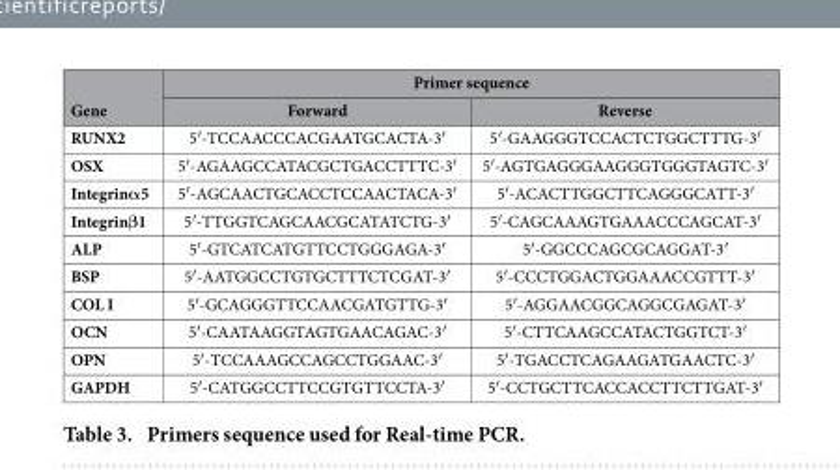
<table><thead><tr><td rowspan="2">Gene</td><td colspan="2">Primer sequence</td></tr><tr><td>Forward</td><td>Reverse</td></tr></thead><tbody><tr><td>RUNX2</td><td>5′ -TCCAACCCACGAATGCACTA-3′</td><td>5′ -GAAGGGTCCACTCTGGCTTTG-3′</td></tr><tr><td>OSX</td><td>5′ -AGAAGCCATACGCTGACCTTTC-3′</td><td>5′ -AGTGAGGGAAGGGTGGGTAGTC-3′</td></tr><tr><td>Integrinα5</td><td>5′ -AGCAACTGCACCTCCAACTACA-3′</td><td>5′ -ACACTTGGCTTCAGGGCATT-3′</td></tr><tr><td>Integrinβ1</td><td>5′ -TTGGTCAGCAACGCATATCTG-3′</td><td>5′ -CAGCAAAGTGAAACCCAGCAT-3′</td></tr><tr><td>ALP</td><td>5′ -GTCATCATGTTCCTGGGAGA-3′</td><td>5′ -GGCCCAGCGCAGGAT-3′</td></tr><tr><td>BSP</td><td>5′ -AATGGCCTGTGCTTTCTCGAT-3′</td><td>5′ -CCCTGGACTGGAAACCGTTT-3′</td></tr><tr><td>COL I</td><td>5′ -GCAGGGTTCCAACGATGTTG-3′</td><td>5′ -AGGAACGGCAGGCGAGAT-3′</td></tr><tr><td>OCN</td><td>5′ -CAATAAGGTAGTGAACAGAC-3′</td><td>5′ -CTTCAAGCCATACTGGTCT-3′</td></tr><tr><td>OPN</td><td>5′ -TCCAAAGCCAGCCTGGAAC-3′</td><td>5′ -TGACCTCAGAAGATGAACTC-3′</td></tr><tr><td>GAPDH</td><td>5′ -CATGGCCTTCCGTGTTCCTA-3′</td><td>5′ -CCTGCTTCACCACCTTCTTGAT-3′</td></tr></tbody></table>